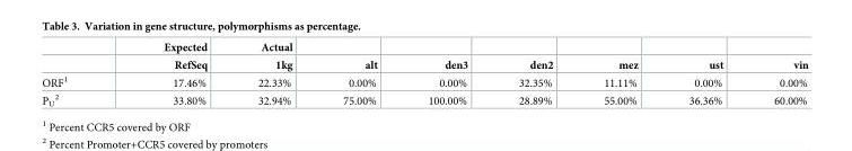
<table><thead><tr><td rowspan="2"></td><td rowspan="2">Expected RefSeq</td><td rowspan="2">Actual 1kg</td><td rowspan="2">alt</td><td rowspan="2">den3</td><td rowspan="2">den2</td><td rowspan="2">mez</td><td rowspan="2">ust</td><td rowspan="2">vin</td></tr><tr></tr></thead><tbody><tr><td>ORF<sup>1</sup></td><td>17.46%</td><td>22.33%</td><td>0.00%</td><td>0.00%</td><td>32.35%</td><td>11.11%</td><td>0.00%</td><td>0.00%</td></tr><tr><td>P<sub>U</sub> <sup>2</sup></td><td>33.80%</td><td>32.94%</td><td>75.00%</td><td>100.00%</td><td>28.89%</td><td>55.00%</td><td>36.36%</td><td>60.00%</td></tr></tbody></table>